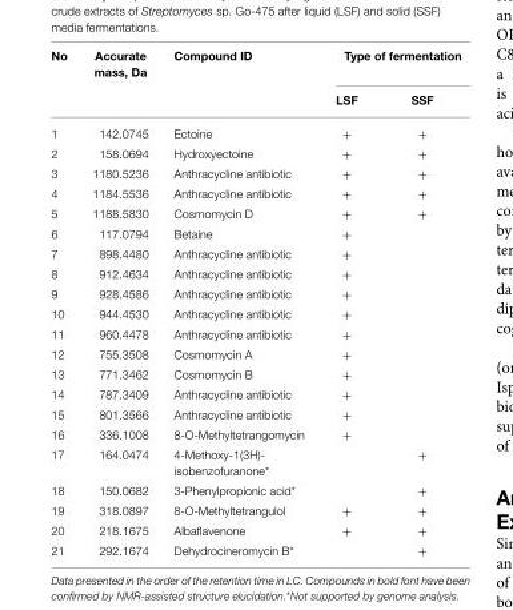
<table><thead><tr><td rowspan="2">No</td><td rowspan="2">Accurate mass, Da</td><td rowspan="2">Compound ID</td><td colspan="2">Type of fermentation</td></tr><tr><td>LSF</td><td>SSF</td></tr></thead><tbody><tr><td>1</td><td>142.0745</td><td>Ectoine</td><td>+</td><td>+</td></tr><tr><td>2</td><td>158.0694</td><td>Hydroxyectoine</td><td>+</td><td>+</td></tr><tr><td>3</td><td>1180.5236</td><td>Anthracycline antibiotic</td><td>+</td><td>+</td></tr><tr><td>4</td><td>1184.5536</td><td>Anthracycline antibiotic</td><td>+</td><td>+</td></tr><tr><td>5</td><td>1188.5830</td><td>Cosmomycin D</td><td>+</td><td>+</td></tr><tr><td>6</td><td>117.0794</td><td>Betaine</td><td>+</td><td></td></tr><tr><td>7</td><td>898.4480</td><td>Anthracycline antibiotic</td><td>+</td><td></td></tr><tr><td>8</td><td>912.4634</td><td>Anthracycline antibiotic</td><td>+</td><td></td></tr><tr><td>9</td><td>928.4586</td><td>Anthracycline antibiotic</td><td>+</td><td></td></tr><tr><td>10</td><td>944.4530</td><td>Anthracycline antibiotic</td><td>+</td><td></td></tr><tr><td>11</td><td>960.4478</td><td>Anthracycline antibiotic</td><td>+</td><td></td></tr><tr><td>12</td><td>755.3508</td><td>Cosmomycin A</td><td>+</td><td></td></tr><tr><td>13</td><td>771.3462</td><td>Cosmomycin B</td><td>+</td><td></td></tr><tr><td>14</td><td>787.3409</td><td>Anthracycline antibiotic</td><td>+</td><td></td></tr><tr><td>15</td><td>801.3566</td><td>Anthracycline antibiotic</td><td>+</td><td></td></tr><tr><td>16</td><td>336.1008</td><td>8-O-Methyltetrangomycin</td><td>+</td><td></td></tr><tr><td>17</td><td>164.0474</td><td>4-Methoxy-1(3H)- isobenzofuranone*</td><td></td><td>+</td></tr><tr><td>18</td><td>150.0682</td><td>3-Phenylpropionic acid*</td><td></td><td>+</td></tr><tr><td>19</td><td>318.0897</td><td>8-O-Methyltetrangulol</td><td>+</td><td>+</td></tr><tr><td>20</td><td>218.1675</td><td>Albaflavenone</td><td>+</td><td>+</td></tr><tr><td>21</td><td>292.1674</td><td>Dehydrocineromycin B*</td><td></td><td>+</td></tr></tbody></table>